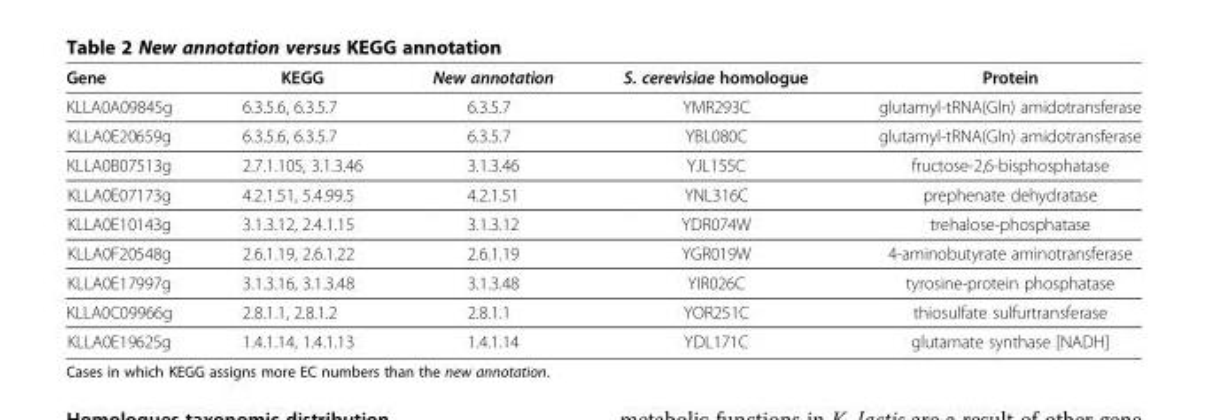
<table><thead><tr><td>Gene</td><td>KEGG</td><td>New annotation</td><td>S. cerevisiae homologue</td><td>Protein</td></tr></thead><tbody><tr><td>KLLA0A09845g</td><td>6.3.5.6, 6.3.5.7</td><td>6.3.5.7</td><td>YMR293C</td><td>glutamyl-tRNA(Gln) amidotransferase</td></tr><tr><td>KLLA0E20659g</td><td>6.3.5.6, 6.3.5.7</td><td>6.3.5.7</td><td>YBL080C</td><td>glutamyl-tRNA(Gln) amidotransferase</td></tr><tr><td>KLLA0B07513g</td><td>2.7.1.105, 3.1.3.46</td><td>3.1.3.46</td><td>YJL155C</td><td>fructose-2,6-bisphosphatase</td></tr><tr><td>KLLA0E07173g</td><td>4.2.1.51, 5.4.99.5</td><td>4.2.1.51</td><td>YNL316C</td><td>prephenate dehydratase</td></tr><tr><td>KLLA0E10143g</td><td>3.1.3.12, 2.4.1.15</td><td>3.1.3.12</td><td>YDR074W</td><td>trehalose-phosphatase</td></tr><tr><td>KLLA0F20548g</td><td>2.6.1.19, 2.6.1.22</td><td>2.6.1.19</td><td>YGR019W</td><td>4-aminobutyrate aminotransferase</td></tr><tr><td>KLLA0E17997g</td><td>3.1.3.16, 3.1.3.48</td><td>3.1.3.48</td><td>YIR026C</td><td>tyrosine-protein phosphatase</td></tr><tr><td>KLLA0C09966g</td><td>2.8.1.1, 2.8.1.2</td><td>2.8.1.1</td><td>YOR251C</td><td>thiosulfate sulfurtransferase</td></tr><tr><td>KLLA0E19625g</td><td>1.4.1.14, 1.4.1.13</td><td>1.4.1.14</td><td>YDL171C</td><td>glutamate synthase [NADH]</td></tr></tbody></table>